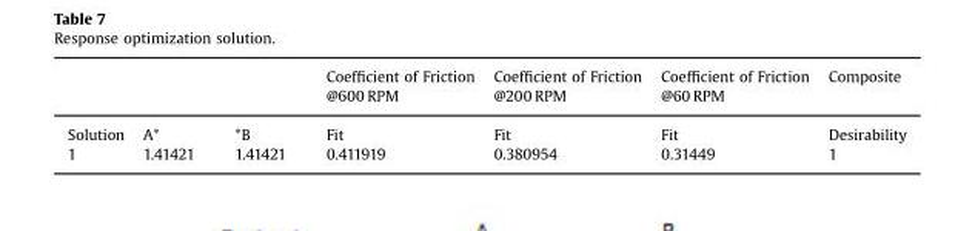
<table><thead><tr><td></td><td></td><td></td><td>Coefficient of Friction @600 RPM</td><td>Coefficient of Friction @200 RPM</td><td>Coefficient of Friction @60 RPM</td><td>Composite</td></tr></thead><tbody><tr><td>Solution</td><td>A*</td><td>*B</td><td>Fit</td><td>Fit</td><td>Fit</td><td>Desirability</td></tr><tr><td>1</td><td>1.41421</td><td>1.41421</td><td>0.411919</td><td>0.380954</td><td>0.31449</td><td>1</td></tr></tbody></table>